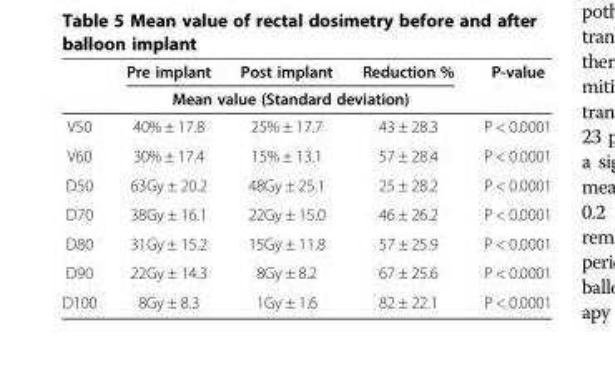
<table><thead><tr><td rowspan="2"></td><td>Pre implant</td><td>Post implant</td><td>Reduction %</td><td rowspan="2">P-value</td></tr><tr><td colspan="3">Mean value (Standard deviation)</td></tr></thead><tbody><tr><td>V50</td><td>40% ± 17.8</td><td>25% ± 17.7</td><td>43 ± 28.3</td><td>P &lt; 0.0001</td></tr><tr><td>V60</td><td>30% ± 17.4</td><td>15% ± 13.1</td><td>57 ± 28.4</td><td>P &lt; 0.0001</td></tr><tr><td>D50</td><td>63Gy ± 20.2</td><td>48Gy ± 25.1</td><td>25 ± 28.2</td><td>P &lt; 0.0001</td></tr><tr><td>D70</td><td>38Gy ± 16.1</td><td>22Gy ± 15.0</td><td>46 ± 26.2</td><td>P &lt; 0.0001</td></tr><tr><td>D80</td><td>31Gy ± 15.2</td><td>15Gy ± 11.8</td><td>57 ± 25.9</td><td>P &lt; 0.0001</td></tr><tr><td>D90</td><td>22Gy ± 14.3</td><td>8Gy ± 8.2</td><td>67 ± 25.6</td><td>P &lt; 0.0001</td></tr><tr><td>D100</td><td>8Gy ± 8.3</td><td>1Gy ± 1.6</td><td>82 ± 22.1</td><td>P &lt; 0.0001</td></tr></tbody></table>